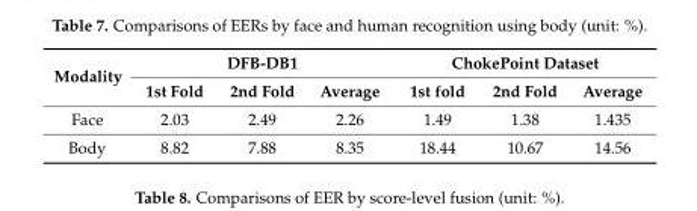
<table><thead><tr><td rowspan="2">Modality</td><td colspan="3">DFB-DB1</td><td colspan="3">ChokePoint Dataset</td></tr><tr><td>1st Fold</td><td>2nd Fold</td><td>Average</td><td>1st fold</td><td>2nd Fold</td><td>Average</td></tr></thead><tbody><tr><td>Face</td><td>2.03</td><td>2.49</td><td>2.26</td><td>1.49</td><td>1.38</td><td>1.435</td></tr><tr><td>Body</td><td>8.82</td><td>7.88</td><td>8.35</td><td>18.44</td><td>10.67</td><td>14.56</td></tr></tbody></table>